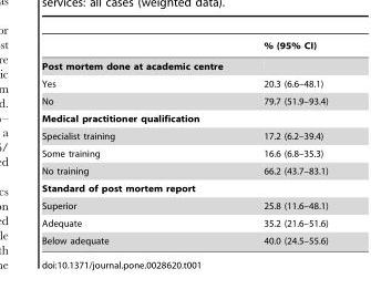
<table><thead><tr><td></td><td>% (95% CI)</td></tr></thead><tbody><tr><td colspan="2">Post mortem done at academic centre</td></tr><tr><td>Yes</td><td>20.3 (6.6–48.1)</td></tr><tr><td>No</td><td>79.7 (51.9–93.4)</td></tr><tr><td colspan="2">Medical practitioner qualification</td></tr><tr><td>Specialist training</td><td>17.2 (6.2–39.4)</td></tr><tr><td>Some training</td><td>16.6 (6.8–35.3)</td></tr><tr><td>No training</td><td>66.2 (43.7–83.1)</td></tr><tr><td colspan="2">Standard of post mortem report</td></tr><tr><td>Superior</td><td>25.8 (11.6–48.1)</td></tr><tr><td>Adequate</td><td>35.2 (21.6–51.6)</td></tr><tr><td>Below adequate</td><td>40.0 (24.5–55.6)</td></tr></tbody></table>